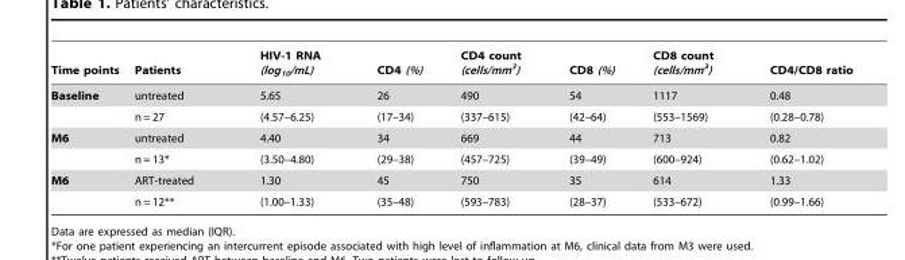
<table><thead><tr><td>Time points</td><td>Patients</td><td>HIV-1 RNA (log<sub>10</sub>/mL)</td><td>CD4 (%)</td><td>CD4 count (cells/mm<sup>3</sup>)</td><td>CD8 (%)</td><td>CD8 count (cells/mm<sup>3</sup>)</td><td>CD4/CD8 ratio</td></tr></thead><tbody><tr><td rowspan="2">Baseline</td><td>untreated</td><td>5.65</td><td>26</td><td>490</td><td>54</td><td>1117</td><td>0.48</td></tr><tr><td>n = 27</td><td>(4.57–6.25)</td><td>(17–34)</td><td>(337–615)</td><td>(42–64)</td><td>(553–1569)</td><td>(0.28–0.78)</td></tr><tr><td rowspan="2">M6</td><td>untreated</td><td>4.40</td><td>34</td><td>669</td><td>44</td><td>713</td><td>0.82</td></tr><tr><td>n = 13*</td><td>(3.50–4.80)</td><td>(29–38)</td><td>(457–725)</td><td>(39–49)</td><td>(600–924)</td><td>(0.62–1.02)</td></tr><tr><td rowspan="2">M6</td><td>ART-treated</td><td>1.30</td><td>45</td><td>750</td><td>35</td><td>614</td><td>1.33</td></tr><tr><td>n = 12**</td><td>(1.00–1.33)</td><td>(35–48)</td><td>(593–783)</td><td>(28–37)</td><td>(533–672)</td><td>(0.99–1.66)</td></tr></tbody></table>